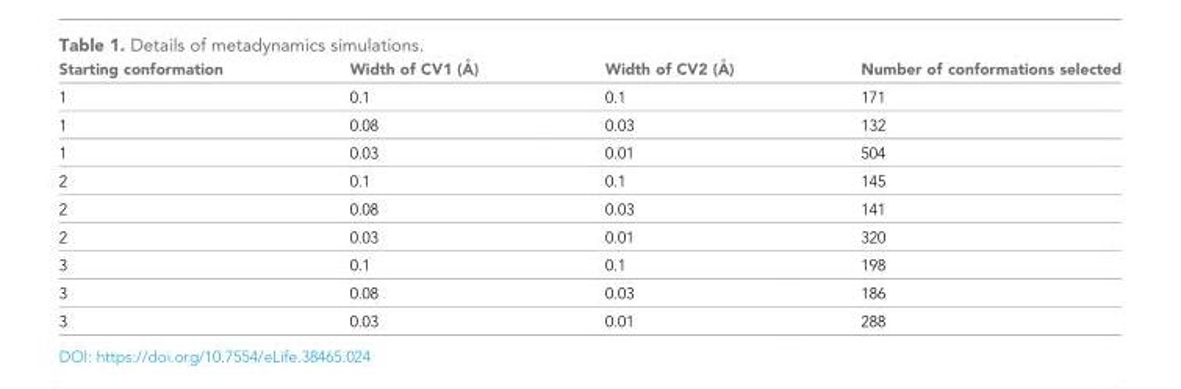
<table><thead><tr><td>Starting conformation</td><td>Width of CV1 (A˚ )</td><td>Width of CV2 (A˚ )</td><td>Number of conformations selected</td></tr></thead><tbody><tr><td>1</td><td>0.1</td><td>0.1</td><td>171</td></tr><tr><td>1</td><td>0.08</td><td>0.03</td><td>132</td></tr><tr><td>1</td><td>0.03</td><td>0.01</td><td>504</td></tr><tr><td>2</td><td>0.1</td><td>0.1</td><td>145</td></tr><tr><td>2</td><td>0.08</td><td>0.03</td><td>141</td></tr><tr><td>2</td><td>0.03</td><td>0.01</td><td>320</td></tr><tr><td>3</td><td>0.1</td><td>0.1</td><td>198</td></tr><tr><td>3</td><td>0.08</td><td>0.03</td><td>186</td></tr><tr><td>3</td><td>0.03</td><td>0.01</td><td>288</td></tr></tbody></table>